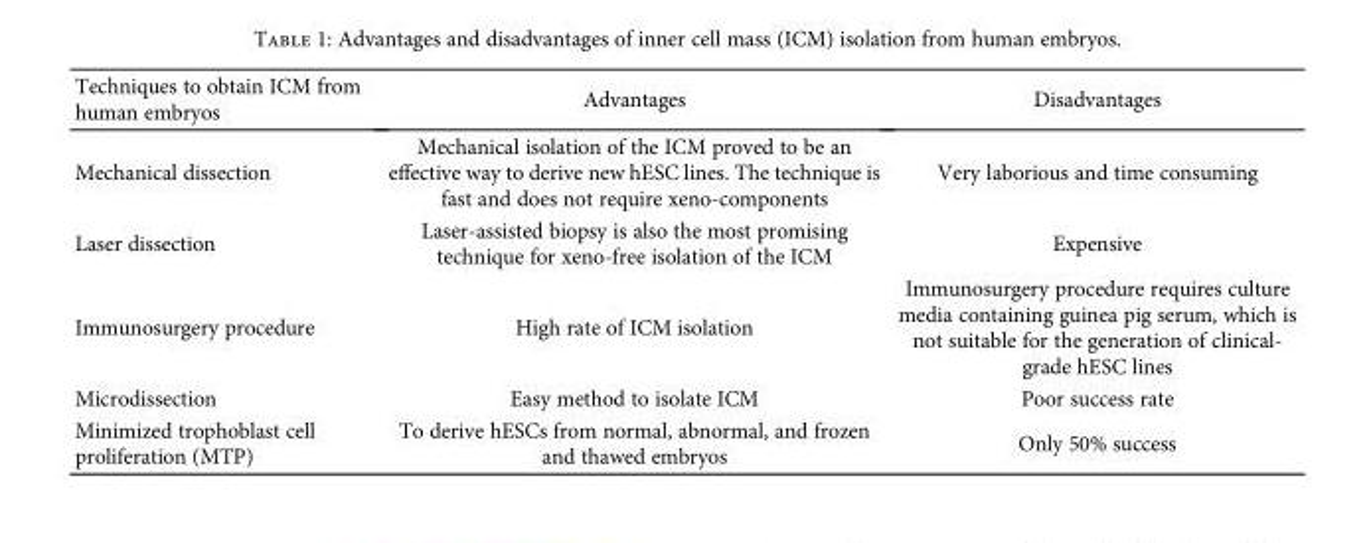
<table><thead><tr><td>Techniques to obtain ICM from human embryos</td><td>Advantages</td><td>Disadvantages</td></tr></thead><tbody><tr><td>Mechanical dissection</td><td>Mechanical isolation of the ICM proved to be an effective way to derive new hESC lines. The technique is fast and does not require xeno-components</td><td>Very laborious and time consuming</td></tr><tr><td>Laser dissection</td><td>Laser-assisted biopsy is also the most promising technique for xeno-free isolation of the ICM</td><td>Expensive</td></tr><tr><td>Immunosurgery procedure</td><td>High rate of ICM isolation</td><td>Immunosurgery procedure requires culture media containing guinea pig serum, which is not suitable for the generation of clinical- grade hESC lines</td></tr><tr><td>Microdissection</td><td>Easy method to isolate ICM</td><td>Poor success rate</td></tr><tr><td>Minimized trophoblast cell proliferation (MTP)</td><td>To derive hESCs from normal, abnormal, and frozen and thawed embryos</td><td>Only 50% success</td></tr></tbody></table>